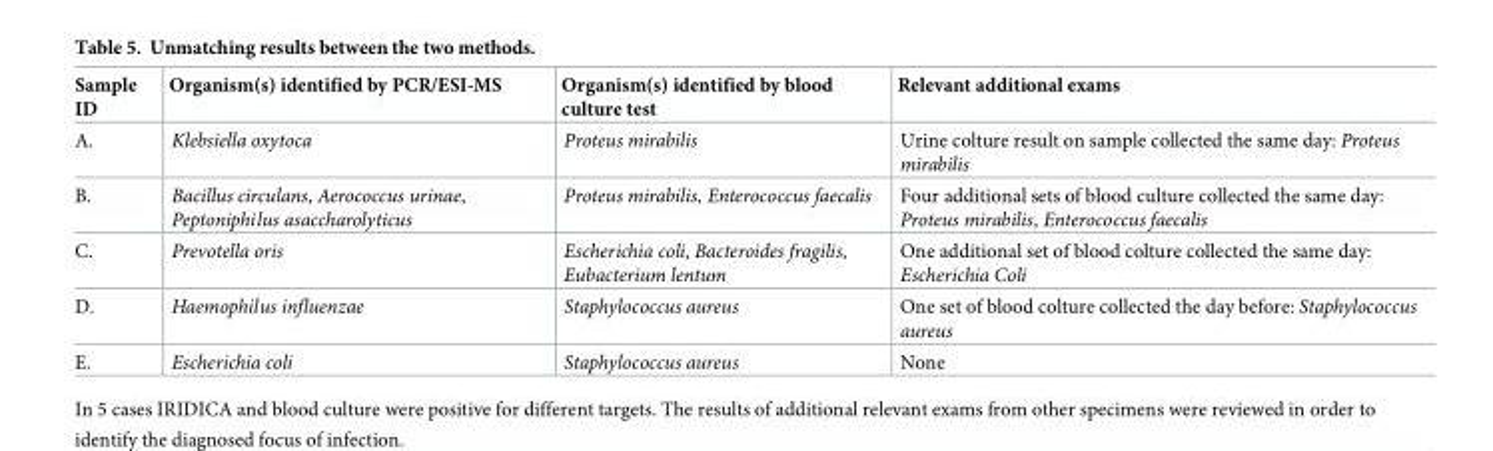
<table><thead><tr><td>Sample ID</td><td>Organism(s) identified by PCR/ESI-MS</td><td>Organism(s) identified by blood culture test</td><td>Relevant additional exams</td></tr></thead><tbody><tr><td>A.</td><td>Klebsiella oxytoca</td><td>Proteus mirabilis</td><td>Urine colture result on sample collected the same day: Proteus mirabilis</td></tr><tr><td>B.</td><td>Bacillus circulans, Aerococcus urinae, Peptoniphilus asaccharolyticus</td><td>Proteus mirabilis, Enterococcus faecalis</td><td>Four additional sets of blood culture collected the same day: Proteus mirabilis, Enterococcus faecalis</td></tr><tr><td>C.</td><td>Prevotella oris</td><td>Escherichia coli, Bacteroides fragilis, Eubacterium lentum</td><td>One additional set of blood colture collected the same day: Escherichia Coli</td></tr><tr><td>D.</td><td>Haemophilus influenzae</td><td>Staphylococcus aureus</td><td>One set of blood colture collected the day before: Staphylococcus aureus</td></tr><tr><td>E.</td><td>Escherichia coli</td><td>Staphylococcus aureus</td><td>None</td></tr></tbody></table>